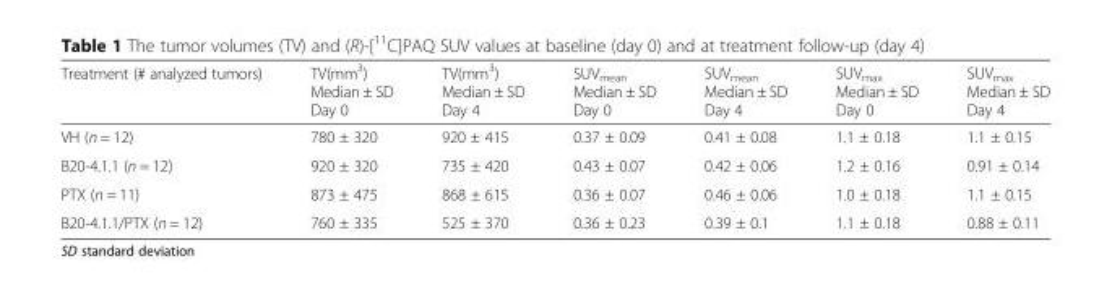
<table><thead><tr><td>Treatment (# analyzed tumors)</td><td>TV(mm<sup>3</sup>) Median ± SD Day 0</td><td>TV(mm<sup>3</sup>) Median ± SD Day 4</td><td>SUV<sub>mean</sub> Median ± SD Day 0</td><td>SUV<sub>mean</sub> Median ± SD Day 4</td><td>SUV<sub>max</sub> Median ± SD Day 0</td><td>SUV<sub>max</sub> Median ± SD Day 4</td></tr></thead><tbody><tr><td>VH (n = 12)</td><td>780 ± 320</td><td>920 ± 415</td><td>0.37 ± 0.09</td><td>0.41 ± 0.08</td><td>1.1 ± 0.18</td><td>1.1 ± 0.15</td></tr><tr><td>B20-4.1.1 (n = 12)</td><td>920 ± 320</td><td>735 ± 420</td><td>0.43 ± 0.07</td><td>0.42 ± 0.06</td><td>1.2 ± 0.16</td><td>0.91 ± 0.14</td></tr><tr><td>PTX (n = 11)</td><td>873 ± 475</td><td>868 ± 615</td><td>0.36 ± 0.07</td><td>0.46 ± 0.06</td><td>1.0 ± 0.18</td><td>1.1 ± 0.15</td></tr><tr><td>B20-4.1.1/PTX (n = 12)</td><td>760 ± 335</td><td>525 ± 370</td><td>0.36 ± 0.23</td><td>0.39 ± 0.1</td><td>1.1 ± 0.18</td><td>0.88 ± 0.11</td></tr></tbody></table>